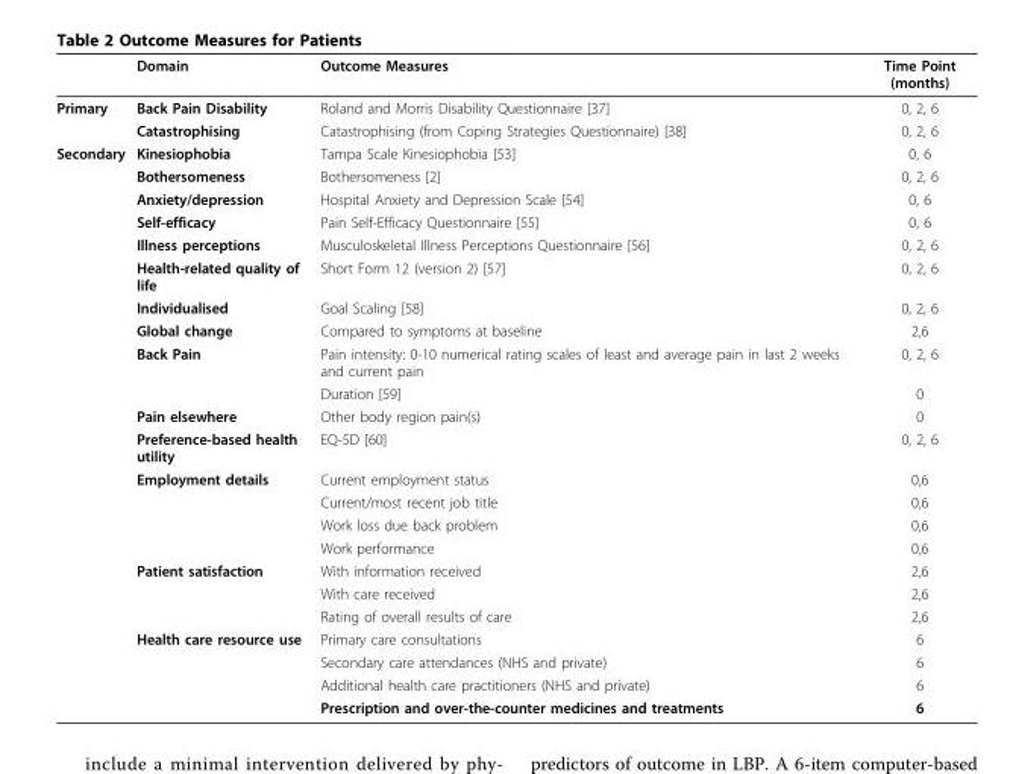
<table><thead><tr><td></td><td>Domain</td><td>Outcome Measures</td><td>Time Point (months)</td></tr></thead><tbody><tr><td rowspan="2">Primary</td><td>Back Pain Disability</td><td>Roland and Morris Disability Questionnaire [37]</td><td>0, 2, 6</td></tr><tr><td>Catastrophising</td><td>Catastrophising (from Coping Strategies Questionnaire) [38]</td><td>0, 2, 6</td></tr><tr><td rowspan="23">Secondary</td><td>Kinesiophobia</td><td>Tampa Scale Kinesiophobia [53]</td><td>0, 6</td></tr><tr><td>Bothersomeness</td><td>Bothersomeness [2]</td><td>0, 2, 6</td></tr><tr><td>Anxiety/depression</td><td>Hospital Anxiety and Depression Scale [54]</td><td>0, 6</td></tr><tr><td>Self-efficacy</td><td>Pain Self-Efficacy Questionnaire [55]</td><td>0, 6</td></tr><tr><td>Illness perceptions</td><td>Musculoskeletal Illness Perceptions Questionnaire [56]</td><td>0, 2, 6</td></tr><tr><td>Health-related quality of life</td><td>Short Form 12 (version 2) [57]</td><td>0, 2, 6</td></tr><tr><td>Individualised</td><td>Goal Scaling [58]</td><td>0, 2, 6</td></tr><tr><td>Global change</td><td>Compared to symptoms at baseline</td><td>2,6</td></tr><tr><td>Back Pain</td><td>Pain intensity: 0-10 numerical rating scales of least and average pain in last 2 weeks and current pain</td><td>0, 2, 6</td></tr><tr><td></td><td>Duration [59]</td><td>0</td></tr><tr><td>Pain elsewhere</td><td>Other body region pain(s)</td><td>0</td></tr><tr><td>Preference-based health utility</td><td>EQ-5D [60]</td><td>0, 2, 6</td></tr><tr><td>Employment details</td><td>Current employment status</td><td>0,6</td></tr><tr><td></td><td>Current/most recent job title</td><td>0,6</td></tr><tr><td></td><td>Work loss due back problem</td><td>0,6</td></tr><tr><td></td><td>Work performance</td><td>0,6</td></tr><tr><td>Patient satisfaction</td><td>With information received</td><td>2,6</td></tr><tr><td></td><td>With care received</td><td>2,6</td></tr><tr><td></td><td>Rating of overall results of care</td><td>2,6</td></tr><tr><td>Health care resource use</td><td>Primary care consultations</td><td>6</td></tr><tr><td></td><td>Secondary care attendances (NHS and private)</td><td>6</td></tr><tr><td></td><td>Additional health care practitioners (NHS and private)</td><td>6</td></tr><tr><td></td><td>Prescription and over-the-counter medicines and treatments</td><td>6</td></tr></tbody></table>